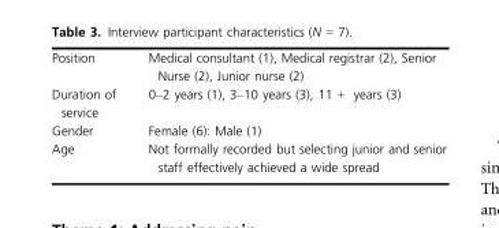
<table><tbody><tr><td>Position</td><td>Medical consultant (1), Medical registrar (2), Senior Nurse (2), Junior nurse (2)</td></tr><tr><td>Duration of service</td><td>0–2 years (1), 3–10 years (3), 11 + years (3)</td></tr><tr><td>Gender</td><td>Female (6): Male (1)</td></tr><tr><td>Age</td><td>Not formally recorded but selecting junior and senior staff effectively achieved a wide spread</td></tr></tbody></table>